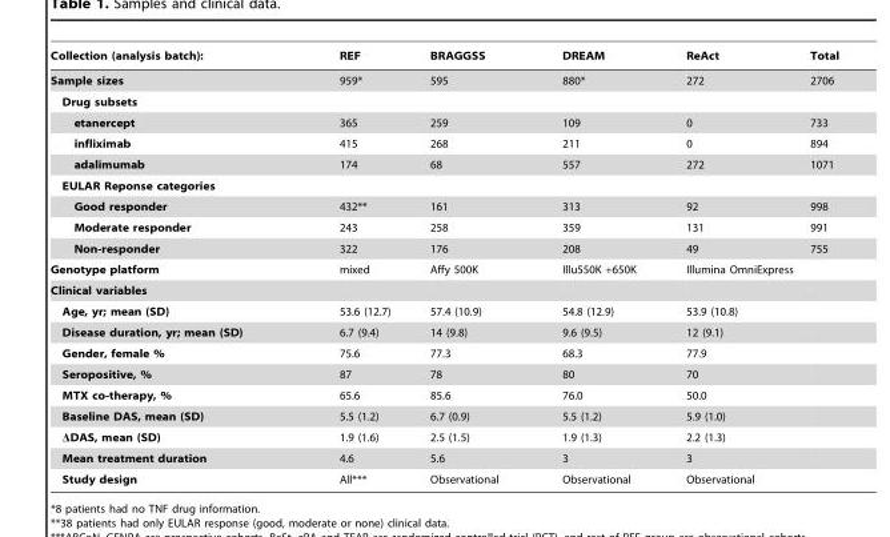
<table><thead><tr><td>Collection (analysis batch):</td><td>REF</td><td>BRAGGSS</td><td>DREAM</td><td>ReAct</td><td>Total</td></tr></thead><tbody><tr><td>Sample sizes</td><td>959*</td><td>595</td><td>880*</td><td>272</td><td>2706</td></tr><tr><td colspan="6">Drug subsets</td></tr><tr><td>etanercept</td><td>365</td><td>259</td><td>109</td><td>0</td><td>733</td></tr><tr><td>infliximab</td><td>415</td><td>268</td><td>211</td><td>0</td><td>894</td></tr><tr><td>adalimumab</td><td>174</td><td>68</td><td>557</td><td>272</td><td>1071</td></tr><tr><td colspan="6">EULAR Reponse categories</td></tr><tr><td>Good responder</td><td>432**</td><td>161</td><td>313</td><td>92</td><td>998</td></tr><tr><td>Moderate responder</td><td>243</td><td>258</td><td>359</td><td>131</td><td>991</td></tr><tr><td>Non-responder</td><td>322</td><td>176</td><td>208</td><td>49</td><td>755</td></tr><tr><td>Genotype platform</td><td>mixed</td><td>Affy 500K</td><td>Illu550K +650K</td><td>Illumina OmniExpress</td><td></td></tr><tr><td colspan="6">Clinical variables</td></tr><tr><td>Age, yr; mean (SD)</td><td>53.6 (12.7)</td><td>57.4 (10.9)</td><td>54.8 (12.9)</td><td>53.9 (10.8)</td><td></td></tr><tr><td>Disease duration, yr; mean (SD)</td><td>6.7 (9.4)</td><td>14 (9.8)</td><td>9.6 (9.5)</td><td>12 (9.1)</td><td></td></tr><tr><td>Gender, female %</td><td>75.6</td><td>77.3</td><td>68.3</td><td>77.9</td><td></td></tr><tr><td>Seropositive, %</td><td>87</td><td>78</td><td>80</td><td>70</td><td></td></tr><tr><td>MTX co-therapy, %</td><td>65.6</td><td>85.6</td><td>76.0</td><td>50.0</td><td></td></tr><tr><td>Baseline DAS, mean (SD)</td><td>5.5 (1.2)</td><td>6.7 (0.9)</td><td>5.5 (1.2)</td><td>5.9 (1.0)</td><td></td></tr><tr><td>ΔDAS, mean (SD)</td><td>1.9 (1.6)</td><td>2.5 (1.5)</td><td>1.9 (1.3)</td><td>2.2 (1.3)</td><td></td></tr><tr><td>Mean treatment duration</td><td>4.6</td><td>5.6</td><td>3</td><td>3</td><td></td></tr><tr><td>Study design</td><td>All***</td><td>Observational</td><td>Observational</td><td>Observational</td><td></td></tr></tbody></table>